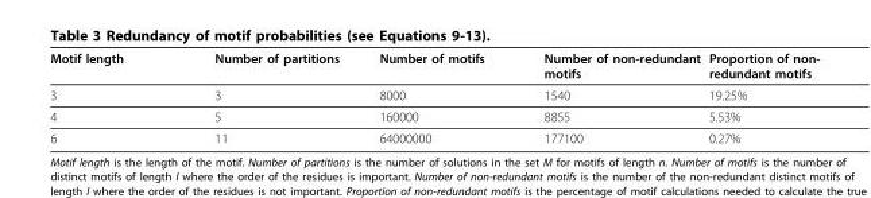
<table><thead><tr><td>Motif length</td><td>Number of partitions</td><td>Number of motifs</td><td>Number of non-redundant motifs</td><td>Proportion of non- redundant motifs</td></tr></thead><tbody><tr><td>3</td><td>3</td><td>8000</td><td>1540</td><td>19.25%</td></tr><tr><td>4</td><td>5</td><td>160000</td><td>8855</td><td>5.53%</td></tr><tr><td>6</td><td>11</td><td>64000000</td><td>177100</td><td>0.27%</td></tr></tbody></table>